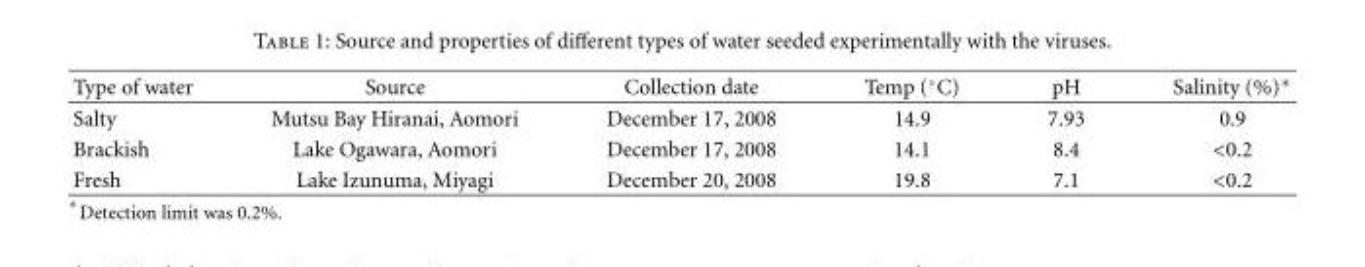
<table><thead><tr><td>Type of water</td><td>Source</td><td>Collection date</td><td>Temp (◦C)</td><td>pH</td><td>Salinity (%)∗</td></tr></thead><tbody><tr><td>Salty</td><td>Mutsu Bay Hiranai, Aomori</td><td>December 17, 2008</td><td>14.9</td><td>7.93</td><td>0.9</td></tr><tr><td>Brackish</td><td>Lake Ogawara, Aomori</td><td>December 17, 2008</td><td>14.1</td><td>8.4</td><td>&lt;0.2</td></tr><tr><td>Fresh</td><td>Lake Izunuma, Miyagi</td><td>December 20, 2008</td><td>19.8</td><td>7.1</td><td>&lt;0.2</td></tr></tbody></table>